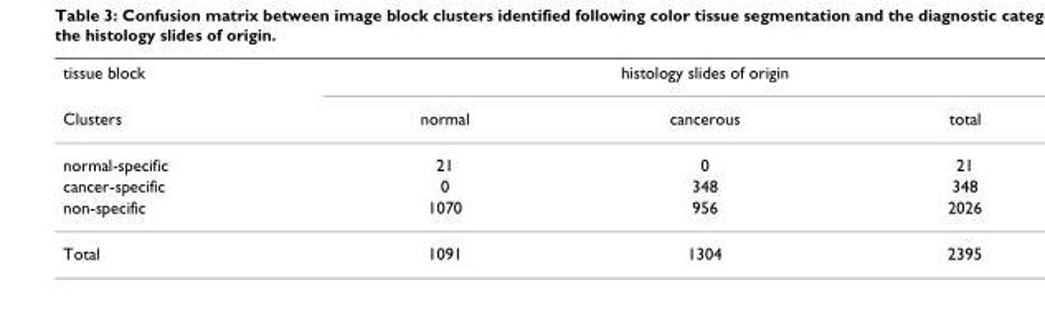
<table><thead><tr><td rowspan="2">tissue block Clusters</td><td colspan="3">histology slides of origin</td></tr><tr><td>normal</td><td>cancerous</td><td>total</td></tr></thead><tbody><tr><td>normal-specific</td><td>21</td><td>0</td><td>21</td></tr><tr><td>cancer-specific</td><td>0</td><td>348</td><td>348</td></tr><tr><td>non-specific</td><td>1070</td><td>956</td><td>2026</td></tr><tr><td>Total</td><td>1091</td><td>1304</td><td>2395</td></tr></tbody></table>